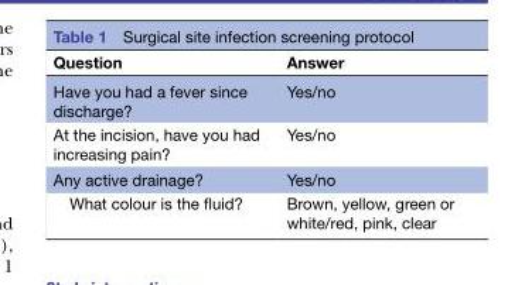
<table><thead><tr><td>Question</td><td>Answer</td></tr></thead><tbody><tr><td>Have you had a fever since discharge?</td><td>Yes/no</td></tr><tr><td>At the incision, have you had increasing pain?</td><td>Yes/no</td></tr><tr><td>Any active drainage?</td><td>Yes/no</td></tr><tr><td>What colour is the fluid?</td><td>Brown, yellow, green or white/red, pink, clear</td></tr></tbody></table>